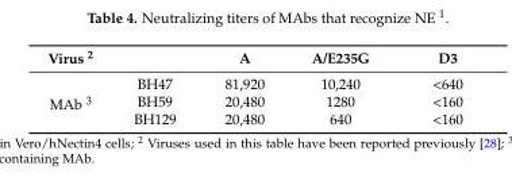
<table><thead><tr><td>Virus <sup>2</sup></td><td></td><td>A</td><td>A/E235G</td><td>D3</td></tr></thead><tbody><tr><td rowspan="3">MAb <sup>3</sup></td><td>BH47</td><td>81,920</td><td>10,240</td><td>&lt;640</td></tr><tr><td>BH59</td><td>20,480</td><td>1280</td><td>&lt;160</td></tr><tr><td>BH129</td><td>20,480</td><td>640</td><td>&lt;160</td></tr></tbody></table>